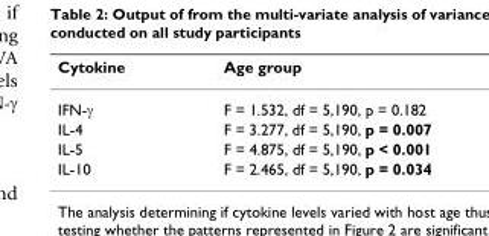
<table><thead><tr><td>Cytokine</td><td>Age group</td></tr></thead><tbody><tr><td>IFN-γ</td><td>F = 1.532, df = 5,190, p = 0.182</td></tr><tr><td>IL-4</td><td>F = 3.277, df = 5,190, p = 0.007</td></tr><tr><td>IL-5</td><td>F = 4.875, df = 5,190, p &lt; 0.001</td></tr><tr><td>IL-10</td><td>F = 2.465, df = 5,190, p = 0.034</td></tr></tbody></table>